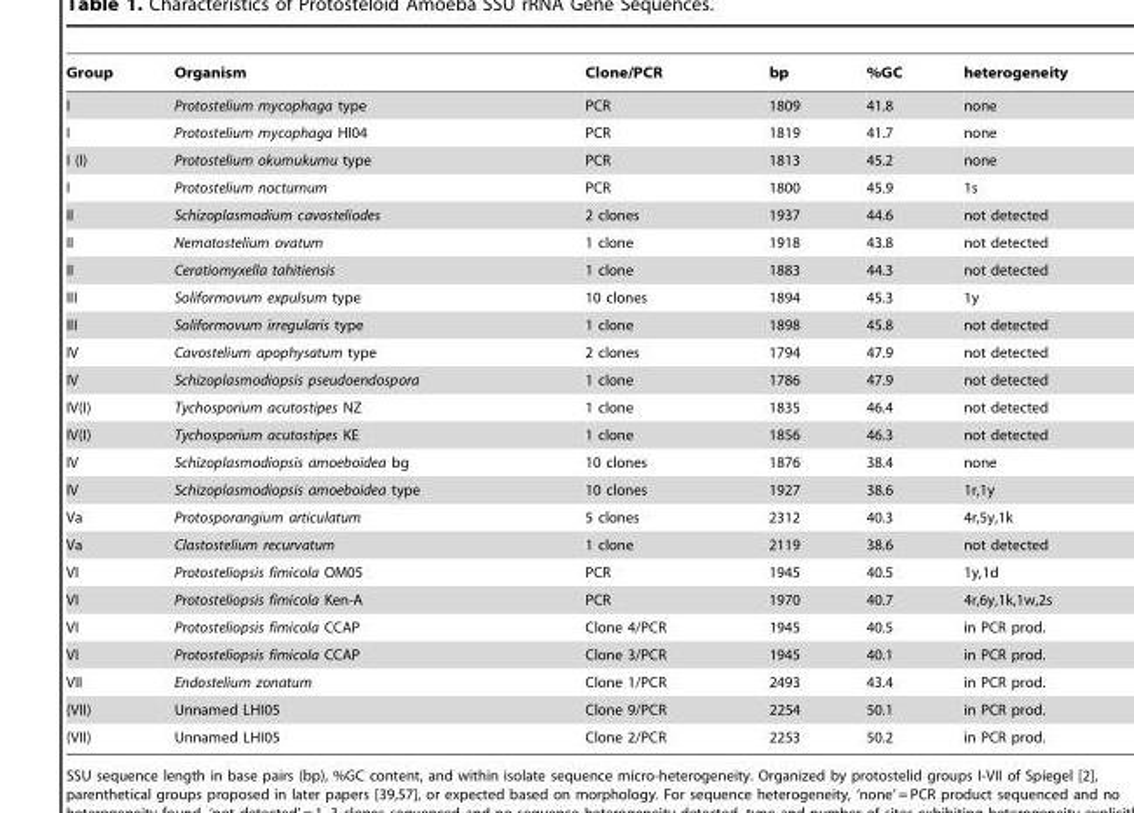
<table><thead><tr><td>Group</td><td>Organism</td><td>Clone/PCR</td><td>bp</td><td>%GC</td><td>heterogeneity</td></tr></thead><tbody><tr><td>I</td><td>Protostelium mycophaga type</td><td>PCR</td><td>1809</td><td>41.8</td><td>none</td></tr><tr><td>I</td><td>Protostelium mycophaga HI04</td><td>PCR</td><td>1819</td><td>41.7</td><td>none</td></tr><tr><td>I (I)</td><td>Protostelium okumukumu type</td><td>PCR</td><td>1813</td><td>45.2</td><td>none</td></tr><tr><td>I</td><td>Protostelium nocturnum</td><td>PCR</td><td>1800</td><td>45.9</td><td>1s</td></tr><tr><td>II</td><td>Schizoplasmodium cavosteliodes</td><td>2 clones</td><td>1937</td><td>44.6</td><td>not detected</td></tr><tr><td>II</td><td>Nematostelium ovatum</td><td>1 clone</td><td>1918</td><td>43.8</td><td>not detected</td></tr><tr><td>II</td><td>Ceratiomyxella tahitiensis</td><td>1 clone</td><td>1883</td><td>44.3</td><td>not detected</td></tr><tr><td>III</td><td>Soliformovum expulsum type</td><td>10 clones</td><td>1894</td><td>45.3</td><td>1y</td></tr><tr><td>III</td><td>Soliformovum irregularis type</td><td>1 clone</td><td>1898</td><td>45.8</td><td>not detected</td></tr><tr><td>IV</td><td>Cavostelium apophysatum type</td><td>2 clones</td><td>1794</td><td>47.9</td><td>not detected</td></tr><tr><td>IV</td><td>Schizoplasmodiopsis pseudoendospora</td><td>1 clone</td><td>1786</td><td>47.9</td><td>not detected</td></tr><tr><td>IV(I)</td><td>Tychosporium acutostipes NZ</td><td>1 clone</td><td>1835</td><td>46.4</td><td>not detected</td></tr><tr><td>IV(I)</td><td>Tychosporium acutostipes KE</td><td>1 clone</td><td>1856</td><td>46.3</td><td>not detected</td></tr><tr><td>IV</td><td>Schizoplasmodiopsis amoeboidea bg</td><td>10 clones</td><td>1876</td><td>38.4</td><td>none</td></tr><tr><td>IV</td><td>Schizoplasmodiopsis amoeboidea type</td><td>10 clones</td><td>1927</td><td>38.6</td><td>1r,1y</td></tr><tr><td>Va</td><td>Protosporangium articulatum</td><td>5 clones</td><td>2312</td><td>40.3</td><td>4r,5y,1k</td></tr><tr><td>Va</td><td>Clastostelium recurvatum</td><td>1 clone</td><td>2119</td><td>38.6</td><td>not detected</td></tr><tr><td>VI</td><td>Protosteliopsis fimicola OM05</td><td>PCR</td><td>1945</td><td>40.5</td><td>1y,1d</td></tr><tr><td>VI</td><td>Protosteliopsis fimicola Ken-A</td><td>PCR</td><td>1970</td><td>40.7</td><td>4r,6y,1k,1w,2s</td></tr><tr><td>VI</td><td>Protosteliopsis fimicola CCAP</td><td>Clone 4/PCR</td><td>1945</td><td>40.5</td><td>in PCR prod.</td></tr><tr><td>VI</td><td>Protosteliopsis fimicola CCAP</td><td>Clone 3/PCR</td><td>1945</td><td>40.1</td><td>in PCR prod.</td></tr><tr><td>VII</td><td>Endostelium zonatum</td><td>Clone 1/PCR</td><td>2493</td><td>43.4</td><td>in PCR prod.</td></tr><tr><td>(VII)</td><td>Unnamed LHI05</td><td>Clone 9/PCR</td><td>2254</td><td>50.1</td><td>in PCR prod.</td></tr><tr><td>(VII)</td><td>Unnamed LHI05</td><td>Clone 2/PCR</td><td>2253</td><td>50.2</td><td>in PCR prod.</td></tr></tbody></table>